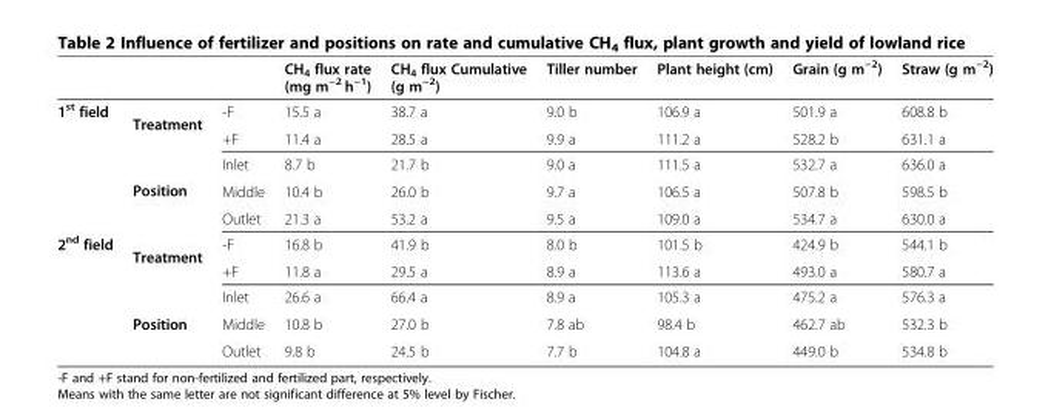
<table><thead><tr><td></td><td></td><td></td><td>CH<sub>4</sub> flux rate (mg m<sup>−2</sup> h<sup>−1</sup>)</td><td>CH<sub>4</sub> flux Cumulative (g m<sup>−2</sup>)</td><td>Tiller number</td><td>Plant height (cm)</td><td>Grain (g m<sup>−2</sup>)</td><td>Straw (g m<sup>−2</sup>)</td></tr></thead><tbody><tr><td rowspan="5">1<sup>st</sup> field</td><td rowspan="2">Treatment</td><td>-F</td><td>15.5 a</td><td>38.7 a</td><td>9.0 b</td><td>106.9 a</td><td>501.9 a</td><td>608.8 b</td></tr><tr><td>+F</td><td>11.4 a</td><td>28.5 a</td><td>9.9 a</td><td>111.2 a</td><td>528.2 b</td><td>631.1 a</td></tr><tr><td rowspan="3">Position</td><td>Inlet</td><td>8.7 b</td><td>21.7 b</td><td>9.0 a</td><td>111.5 a</td><td>532.7 a</td><td>636.0 a</td></tr><tr><td>Middle</td><td>10.4 b</td><td>26.0 b</td><td>9.7 a</td><td>106.5 a</td><td>507.8 b</td><td>598.5 b</td></tr><tr><td>Outlet</td><td>21.3 a</td><td>53.2 a</td><td>9.5 a</td><td>109.0 a</td><td>534.7 a</td><td>630.0 a</td></tr><tr><td rowspan="5">2<sup>nd</sup> field</td><td rowspan="2">Treatment</td><td>-F</td><td>16.8 b</td><td>41.9 b</td><td>8.0 b</td><td>101.5 b</td><td>424.9 b</td><td>544.1 b</td></tr><tr><td>+F</td><td>11.8 a</td><td>29.5 a</td><td>8.9 a</td><td>113.6 a</td><td>493.0 a</td><td>580.7 a</td></tr><tr><td rowspan="3">Position</td><td>Inlet</td><td>26.6 a</td><td>66.4 a</td><td>8.9 a</td><td>105.3 a</td><td>475.2 a</td><td>576.3 a</td></tr><tr><td>Middle</td><td>10.8 b</td><td>27.0 b</td><td>7.8 ab</td><td>98.4 b</td><td>462.7 ab</td><td>532.3 b</td></tr><tr><td>Outlet</td><td>9.8 b</td><td>24.5 b</td><td>7.7 b</td><td>104.8 a</td><td>449.0 b</td><td>534.8 b</td></tr></tbody></table>